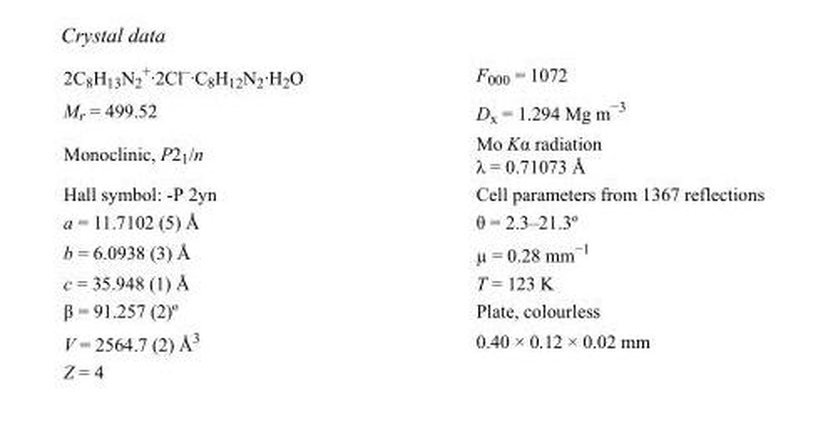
<table><tbody><tr><td>2C<sub>8</sub>H<sub>13</sub>N<sub>2</sub> <sup>+</sup>·2Cl<sup>–</sup>·C<sub>8</sub>H<sub>12</sub>N<sub>2</sub>·H<sub>2</sub>O</td><td>F000 = 1072</td></tr><tr><td>M<sub>r</sub> = 499.52</td><td>D<sub>x</sub> = 1.294 Mg m<sup>−3</sup></td></tr><tr><td>Monoclinic, P2<sub>1</sub>/n</td><td>Mo Kα radiation λ = 0.71073 Å</td></tr><tr><td>Hall symbol: -P 2yn</td><td>Cell parameters from 1367 reflections</td></tr><tr><td>a = 11.7102 (5) Å</td><td>θ = 2.3–21.3º</td></tr><tr><td>b = 6.0938 (3) Å</td><td>µ = 0.28 mm<sup>−1</sup></td></tr><tr><td>c = 35.948 (1) Å</td><td>T = 123 K</td></tr><tr><td>β = 91.257 (2)º</td><td>Plate, colourless</td></tr><tr><td>V = 2564.7 (2) Å<sup>3</sup></td><td>0.40 × 0.12 × 0.02 mm</td></tr><tr><td>Z = 4</td><td></td></tr></tbody></table>